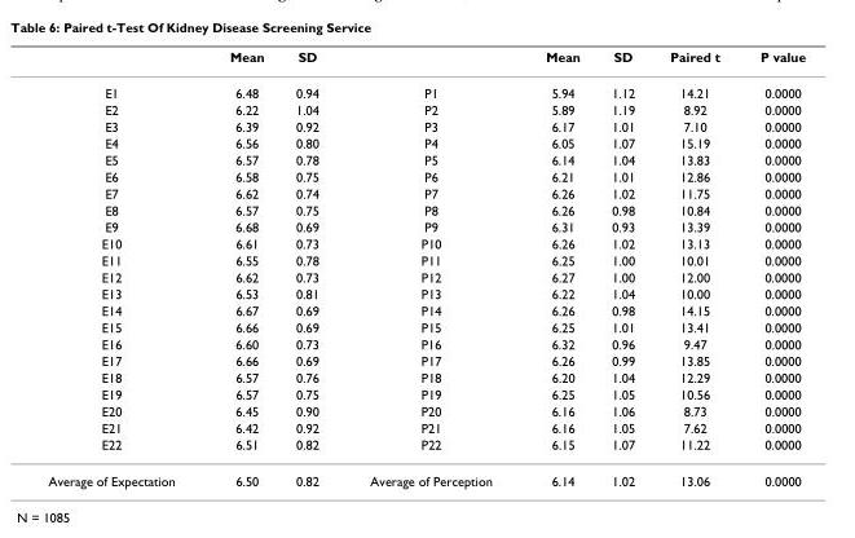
<table><thead><tr><td></td><td>Mean</td><td>SD</td><td></td><td>Mean</td><td>SD</td><td>Paired t</td><td>P value</td></tr></thead><tbody><tr><td>E1</td><td>6.48</td><td>0.94</td><td>P1</td><td>5.94</td><td>1.12</td><td>14.21</td><td>0.0000</td></tr><tr><td>E2</td><td>6.22</td><td>1.04</td><td>P2</td><td>5.89</td><td>1.19</td><td>8.92</td><td>0.0000</td></tr><tr><td>E3</td><td>6.39</td><td>0.92</td><td>P3</td><td>6.17</td><td>1.01</td><td>7.10</td><td>0.0000</td></tr><tr><td>E4</td><td>6.56</td><td>0.80</td><td>P4</td><td>6.05</td><td>1.07</td><td>15.19</td><td>0.0000</td></tr><tr><td>E5</td><td>6.57</td><td>0.78</td><td>P5</td><td>6.14</td><td>1.04</td><td>13.83</td><td>0.0000</td></tr><tr><td>E6</td><td>6.58</td><td>0.75</td><td>P6</td><td>6.21</td><td>1.01</td><td>12.86</td><td>0.0000</td></tr><tr><td>E7</td><td>6.62</td><td>0.74</td><td>P7</td><td>6.26</td><td>1.02</td><td>11.75</td><td>0.0000</td></tr><tr><td>E8</td><td>6.57</td><td>0.75</td><td>P8</td><td>6.26</td><td>0.98</td><td>10.84</td><td>0.0000</td></tr><tr><td>E9</td><td>6.68</td><td>0.69</td><td>P9</td><td>6.31</td><td>0.93</td><td>13.39</td><td>0.0000</td></tr><tr><td>E10</td><td>6.61</td><td>0.73</td><td>P10</td><td>6.26</td><td>1.02</td><td>13.13</td><td>0.0000</td></tr><tr><td>E11</td><td>6.55</td><td>0.78</td><td>P11</td><td>6.25</td><td>1.00</td><td>10.01</td><td>0.0000</td></tr><tr><td>E12</td><td>6.62</td><td>0.73</td><td>P12</td><td>6.27</td><td>1.00</td><td>12.00</td><td>0.0000</td></tr><tr><td>E13</td><td>6.53</td><td>0.81</td><td>P13</td><td>6.22</td><td>1.04</td><td>10.00</td><td>0.0000</td></tr><tr><td>E14</td><td>6.67</td><td>0.69</td><td>P14</td><td>6.26</td><td>0.98</td><td>14.15</td><td>0.0000</td></tr><tr><td>E15</td><td>6.66</td><td>0.69</td><td>P15</td><td>6.25</td><td>1.01</td><td>13.41</td><td>0.0000</td></tr><tr><td>E16</td><td>6.60</td><td>0.73</td><td>P16</td><td>6.32</td><td>0.96</td><td>9.47</td><td>0.0000</td></tr><tr><td>E17</td><td>6.66</td><td>0.69</td><td>P17</td><td>6.26</td><td>0.99</td><td>13.85</td><td>0.0000</td></tr><tr><td>E18</td><td>6.57</td><td>0.76</td><td>P18</td><td>6.20</td><td>1.04</td><td>12.29</td><td>0.0000</td></tr><tr><td>E19</td><td>6.57</td><td>0.75</td><td>P19</td><td>6.25</td><td>1.05</td><td>10.56</td><td>0.0000</td></tr><tr><td>E20</td><td>6.45</td><td>0.90</td><td>P20</td><td>6.16</td><td>1.06</td><td>8.73</td><td>0.0000</td></tr><tr><td>E21</td><td>6.42</td><td>0.92</td><td>P21</td><td>6.16</td><td>1.05</td><td>7.62</td><td>0.0000</td></tr><tr><td>E22</td><td>6.51</td><td>0.82</td><td>P22</td><td>6.15</td><td>1.07</td><td>11.22</td><td>0.0000</td></tr><tr><td>Average of Expectation</td><td>6.50</td><td>0.82</td><td>Average of Perception</td><td>6.14</td><td>1.02</td><td>13.06</td><td>0.0000</td></tr></tbody></table>